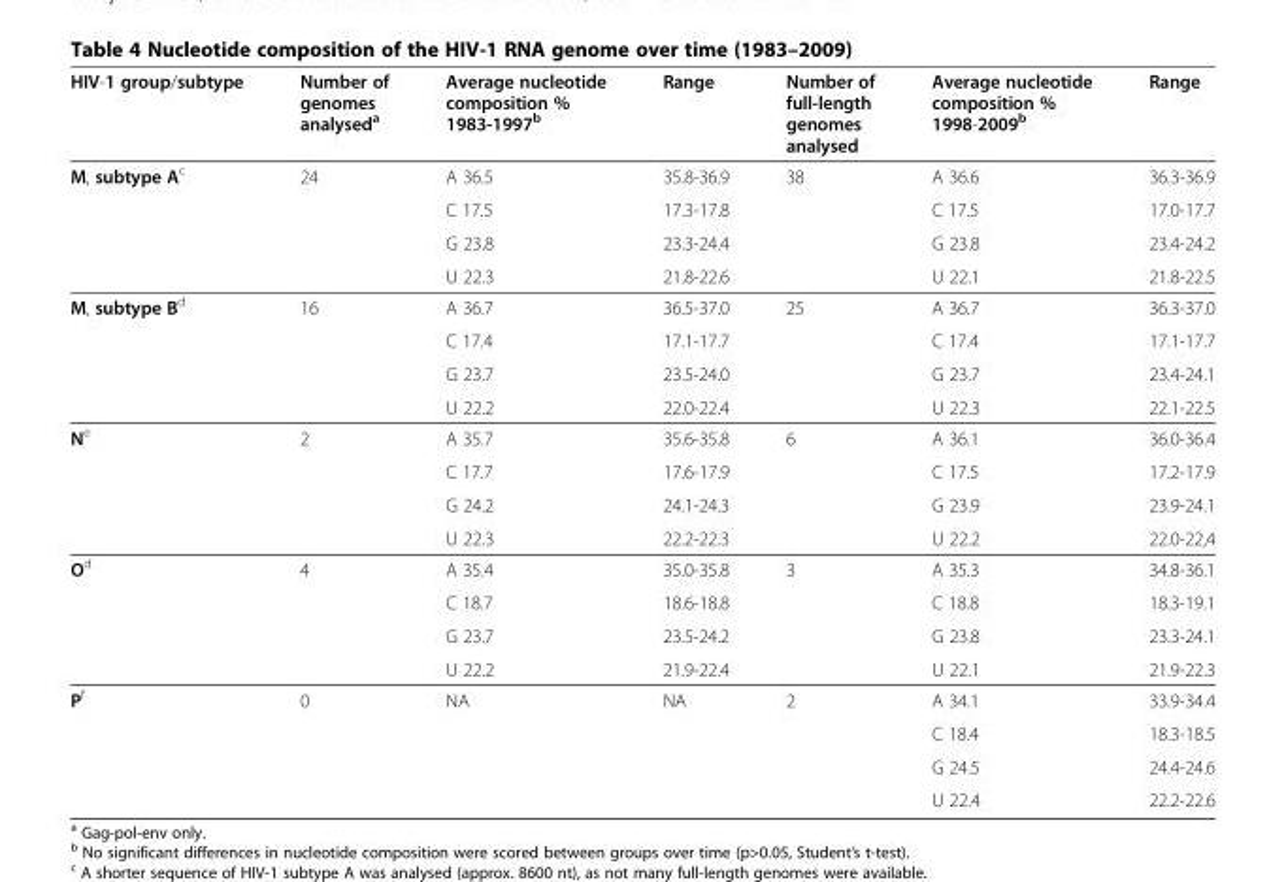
<table><thead><tr><td>HIV-1 group/subtype</td><td>Number of genomes analysed<sup>a</sup></td><td>Average nucleotide composition % 1983-1997<sup>b</sup></td><td>Range</td><td>Number of full-length genomes analysed</td><td>Average nucleotide composition % 1998-2009<sup>b</sup></td><td>Range</td></tr></thead><tbody><tr><td rowspan="4">M, subtype A<sup>c</sup></td><td>24</td><td>A 36.5</td><td>35.8-36.9</td><td>38</td><td>A 36.6</td><td>36.3-36.9</td></tr><tr><td></td><td>C 17.5</td><td>17.3-17.8</td><td></td><td>C 17.5</td><td>17.0-17.7</td></tr><tr><td></td><td>G 23.8</td><td>23.3-24.4</td><td></td><td>G 23.8</td><td>23.4-24.2</td></tr><tr><td></td><td>U 22.3</td><td>21.8-22.6</td><td></td><td>U 22.1</td><td>21.8-22.5</td></tr><tr><td rowspan="4">M, subtype B<sup>d</sup></td><td>16</td><td>A 36.7</td><td>36.5-37.0</td><td>25</td><td>A 36.7</td><td>36.3-37.0</td></tr><tr><td></td><td>C 17.4</td><td>17.1-17.7</td><td></td><td>C 17.4</td><td>17.1-17.7</td></tr><tr><td></td><td>G 23.7</td><td>23.5-24.0</td><td></td><td>G 23.7</td><td>23.4-24.1</td></tr><tr><td></td><td>U 22.2</td><td>22.0-22.4</td><td></td><td>U 22.3</td><td>22.1-22.5</td></tr><tr><td rowspan="4">N<sup>e</sup></td><td>2</td><td>A 35.7</td><td>35.6-35.8</td><td>6</td><td>A 36.1</td><td>36.0-36.4</td></tr><tr><td></td><td>C 17.7</td><td>17.6-17.9</td><td></td><td>C 17.5</td><td>17.2-17.9</td></tr><tr><td></td><td>G 24.2</td><td>24.1-24.3</td><td></td><td>G 23.9</td><td>23.9-24.1</td></tr><tr><td></td><td>U 22.3</td><td>22.2-22.3</td><td></td><td>U 22.2</td><td>22.0-22,4</td></tr><tr><td rowspan="4">O<sup>d</sup></td><td>4</td><td>A 35.4</td><td>35.0-35.8</td><td>3</td><td>A 35.3</td><td>34.8-36.1</td></tr><tr><td></td><td>C 18.7</td><td>18.6-18.8</td><td></td><td>C 18.8</td><td>18.3-19.1</td></tr><tr><td></td><td>G 23.7</td><td>23.5-24.2</td><td></td><td>G 23.8</td><td>23.3-24.1</td></tr><tr><td></td><td>U 22.2</td><td>21.9-22.4</td><td></td><td>U 22.1</td><td>21.9-22.3</td></tr><tr><td rowspan="4">P<sup>f</sup></td><td>0</td><td>NA</td><td>NA</td><td>2</td><td>A 34.1</td><td>33.9-34.4</td></tr><tr><td></td><td></td><td></td><td></td><td>C 18.4</td><td>18.3-18.5</td></tr><tr><td></td><td></td><td></td><td></td><td>G 24.5</td><td>24.4-24.6</td></tr><tr><td></td><td></td><td></td><td></td><td>U 22.4</td><td>22.2-22.6</td></tr></tbody></table>